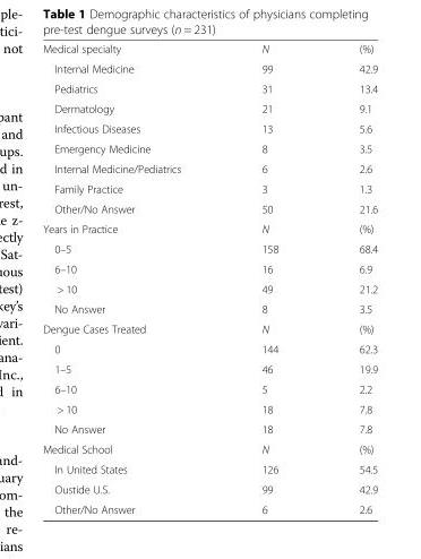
<table><tbody><tr><td>Medical specialty</td><td>N</td><td>(%)</td></tr><tr><td>Internal Medicine</td><td>99</td><td>42.9</td></tr><tr><td>Pediatrics</td><td>31</td><td>13.4</td></tr><tr><td>Dermatology</td><td>21</td><td>9.1</td></tr><tr><td>Infectious Diseases</td><td>13</td><td>5.6</td></tr><tr><td>Emergency Medicine</td><td>8</td><td>3.5</td></tr><tr><td>Internal Medicine/Pediatrics</td><td>6</td><td>2.6</td></tr><tr><td>Family Practice</td><td>3</td><td>1.3</td></tr><tr><td>Other/No Answer</td><td>50</td><td>21.6</td></tr><tr><td>Years in Practice</td><td>N</td><td>(%)</td></tr><tr><td>0–5</td><td>158</td><td>68.4</td></tr><tr><td>6–10</td><td>16</td><td>6.9</td></tr><tr><td>&gt; 10</td><td>49</td><td>21.2</td></tr><tr><td>No Answer</td><td>8</td><td>3.5</td></tr><tr><td>Dengue Cases Treated</td><td>N</td><td>(%)</td></tr><tr><td>0</td><td>144</td><td>62.3</td></tr><tr><td>1–5</td><td>46</td><td>19.9</td></tr><tr><td>6–10</td><td>5</td><td>2.2</td></tr><tr><td>&gt; 10</td><td>18</td><td>7.8</td></tr><tr><td>No Answer</td><td>18</td><td>7.8</td></tr><tr><td>Medical School</td><td>N</td><td>(%)</td></tr><tr><td>In United States</td><td>126</td><td>54.5</td></tr><tr><td>Oustide U.S.</td><td>99</td><td>42.9</td></tr><tr><td>Other/No Answer</td><td>6</td><td>2.6</td></tr></tbody></table>